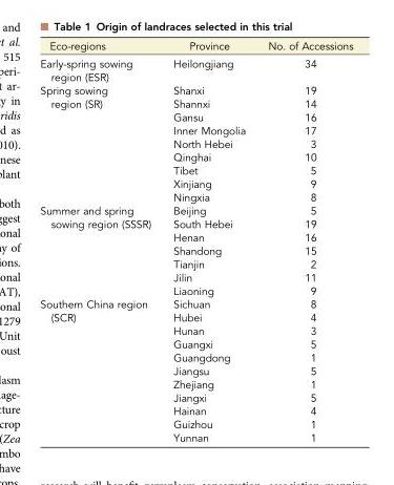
<table><thead><tr><td>Eco-regions</td><td>Province</td><td>No. of Accessions</td></tr></thead><tbody><tr><td>Early-spring sowing region (ESR)</td><td>Heilongjiang</td><td>34</td></tr><tr><td rowspan="9">Spring sowing region (SR)</td><td>Shanxi</td><td>19</td></tr><tr><td>Shannxi</td><td>14</td></tr><tr><td>Gansu</td><td>16</td></tr><tr><td>Inner Mongolia</td><td>17</td></tr><tr><td>North Hebei</td><td>3</td></tr><tr><td>Qinghai</td><td>10</td></tr><tr><td>Tibet</td><td>5</td></tr><tr><td>Xinjiang</td><td>9</td></tr><tr><td>Ningxia</td><td>8</td></tr><tr><td rowspan="7">Summer and spring sowing region (SSSR)</td><td>Beijing</td><td>5</td></tr><tr><td>South Hebei</td><td>19</td></tr><tr><td>Henan</td><td>16</td></tr><tr><td>Shandong</td><td>15</td></tr><tr><td>Tianjin</td><td>2</td></tr><tr><td>Jilin</td><td>11</td></tr><tr><td>Liaoning</td><td>9</td></tr><tr><td rowspan="11">Southern China region (SCR)</td><td>Sichuan</td><td>8</td></tr><tr><td>Hubei</td><td>4</td></tr><tr><td>Hunan</td><td>3</td></tr><tr><td>Guangxi</td><td>5</td></tr><tr><td>Guangdong</td><td>1</td></tr><tr><td>Jiangsu</td><td>5</td></tr><tr><td>Zhejiang</td><td>1</td></tr><tr><td>Jiangxi</td><td>5</td></tr><tr><td>Hainan</td><td>4</td></tr><tr><td>Guizhou</td><td>1</td></tr><tr><td>Yunnan</td><td>1</td></tr></tbody></table>